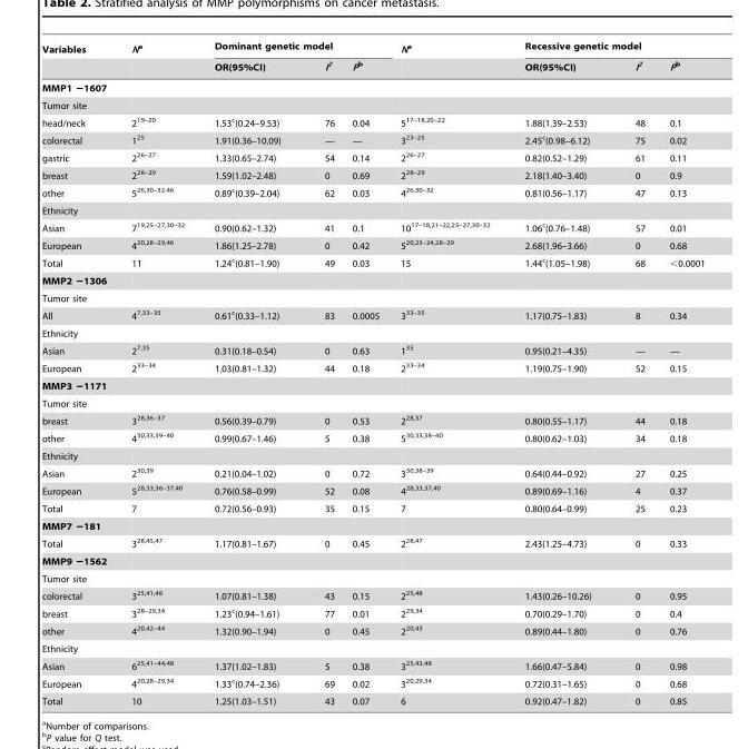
<table><thead><tr><td rowspan="2">Variables</td><td rowspan="2">Na</td><td colspan="3">Dominant genetic model</td><td rowspan="2">Na</td><td colspan="3">Recessive genetic model</td></tr><tr><td>OR(95%CI)</td><td>I<sup>2</sup></td><td>Pb</td><td>OR(95%CI)</td><td>I<sup>2</sup></td><td>Pb</td></tr></thead><tbody><tr><td colspan="9">MMP1 −1607</td></tr><tr><td colspan="9">Tumor site</td></tr><tr><td>head/neck</td><td>2<sup>19–20</sup></td><td>1.53<sup>c</sup>(0.24–9.53)</td><td>76</td><td>0.04</td><td>5<sup>17–18,20–22</sup></td><td>1.88(1.39–2.53)</td><td>48</td><td>0.1</td></tr><tr><td>colorectal</td><td>1<sup>25</sup></td><td>1.91(0.36–10.09)</td><td>—</td><td>—</td><td>3<sup>23–25</sup></td><td>2.45<sup>c</sup>(0.98–6.12)</td><td>75</td><td>0.02</td></tr><tr><td>gastric</td><td>2<sup>26–27</sup></td><td>1.33(0.65–2.74)</td><td>54</td><td>0.14</td><td>2<sup>26–27</sup></td><td>0.82(0.52–1.29)</td><td>61</td><td>0.11</td></tr><tr><td>breast</td><td>2<sup>28–29</sup></td><td>1.59(1.02–2.48)</td><td>0</td><td>0.69</td><td>2<sup>28–29</sup></td><td>2.18(1.40–3.40)</td><td>0</td><td>0.9</td></tr><tr><td>other</td><td>5<sup>26,30–32.46</sup></td><td>0.89<sup>c</sup>(0.39–2.04)</td><td>62</td><td>0.03</td><td>4<sup>26,30–32</sup></td><td>0.81(0.56–1.17)</td><td>47</td><td>0.13</td></tr><tr><td colspan="9">Ethnicity</td></tr><tr><td>Asian</td><td>7<sup>19,25–27,30–32</sup></td><td>0.90(0.62–1.32)</td><td>41</td><td>0.1</td><td>10<sup>17–18,21–22,25–27,30–32</sup></td><td>1.06<sup>c</sup>(0.76–1.48)</td><td>57</td><td>0.01</td></tr><tr><td>European</td><td>4<sup>20,28–29,46</sup></td><td>1.86(1.25–2.78)</td><td>0</td><td>0.42</td><td>5<sup>20,23–24,28–29</sup></td><td>2.68(1.96–3.66)</td><td>0</td><td>0.68</td></tr><tr><td>Total</td><td>11</td><td>1.24<sup>c</sup>(0.81–1.90)</td><td>49</td><td>0.03</td><td>15</td><td>1.44<sup>c</sup>(1.05–1.98)</td><td>68</td><td>&lt;0.0001</td></tr><tr><td colspan="9">MMP2 −1306</td></tr><tr><td colspan="9">Tumor site</td></tr><tr><td>All</td><td>4<sup>7,33–35</sup></td><td>0.61<sup>c</sup>(0.33–1.12)</td><td>83</td><td>0.0005</td><td>3<sup>33–35</sup></td><td>1.17(0.75–1.83)</td><td>8</td><td>0.34</td></tr><tr><td colspan="9">Ethnicity</td></tr><tr><td>Asian</td><td>2<sup>7,35</sup></td><td>0.31(0.18–0.54)</td><td>0</td><td>0.63</td><td>1<sup>35</sup></td><td>0.95(0.21–4.35)</td><td>—</td><td>—</td></tr><tr><td>European</td><td>2<sup>33–34</sup></td><td>1.03(0.81–1.32)</td><td>44</td><td>0.18</td><td>2<sup>33–34</sup></td><td>1.19(0.75–1.90)</td><td>52</td><td>0.15</td></tr><tr><td colspan="9">MMP3 −1171</td></tr><tr><td colspan="9">Tumor site</td></tr><tr><td>breast</td><td>3<sup>28,36–37</sup></td><td>0.56(0.39–0.79)</td><td>0</td><td>0.53</td><td>2<sup>28,37</sup></td><td>0.80(0.55–1.17)</td><td>44</td><td>0.18</td></tr><tr><td>other</td><td>4<sup>30,33,39–40</sup></td><td>0.99(0.67–1.46)</td><td>5</td><td>0.38</td><td>5<sup>30,33,38–40</sup></td><td>0.80(0.62–1.03)</td><td>34</td><td>0.18</td></tr><tr><td colspan="9">Ethnicity</td></tr><tr><td>Asian</td><td>2<sup>30,39</sup></td><td>0.21(0.04–1.02)</td><td>0</td><td>0.72</td><td>3<sup>30,38–39</sup></td><td>0.64(0.44–0.92)</td><td>27</td><td>0.25</td></tr><tr><td>European</td><td>5<sup>28,33,36–37,40</sup></td><td>0.76(0.58–0.99)</td><td>52</td><td>0.08</td><td>4<sup>28,33,37,40</sup></td><td>0.89(0.69–1.16)</td><td>4</td><td>0.37</td></tr><tr><td>Total</td><td>7</td><td>0.72(0.56–0.93)</td><td>35</td><td>0.15</td><td>7</td><td>0.80(0.64–0.99)</td><td>25</td><td>0.23</td></tr><tr><td colspan="9">MMP7 −181</td></tr><tr><td>Total</td><td>3<sup>28,45,47</sup></td><td>1.17(0.81–1.67)</td><td>0</td><td>0.45</td><td>2<sup>28,47</sup></td><td>2.43(1.25–4.73)</td><td>0</td><td>0.33</td></tr><tr><td colspan="9">MMP9 −1562</td></tr><tr><td colspan="9">Tumor site</td></tr><tr><td>colorectal</td><td>3<sup>25,41,48</sup></td><td>1.07(0.81–1.38)</td><td>43</td><td>0.15</td><td>2<sup>25,48</sup></td><td>1.43(0.26–10.26)</td><td>0</td><td>0.95</td></tr><tr><td>breast</td><td>3<sup>28–29,34</sup></td><td>1.23<sup>c</sup>(0.94–1.61)</td><td>77</td><td>0.01</td><td>2<sup>29,34</sup></td><td>0.70(0.29–1.70)</td><td>0</td><td>0.4</td></tr><tr><td>other</td><td>4<sup>20,42–44</sup></td><td>1.32(0.90–1.94)</td><td>0</td><td>0.45</td><td>2<sup>20,43</sup></td><td>0.89(0.44–1.80)</td><td>0</td><td>0.76</td></tr><tr><td colspan="9">Ethnicity</td></tr><tr><td>Asian</td><td>6<sup>25,41–44,48</sup></td><td>1.37(1.02–1.83)</td><td>5</td><td>0.38</td><td>3<sup>25,43,48</sup></td><td>1.66(0.47–5.84)</td><td>0</td><td>0.98</td></tr><tr><td>European</td><td>4<sup>20,28–29,34</sup></td><td>1.33<sup>c</sup>(0.74–2.36)</td><td>69</td><td>0.02</td><td>3<sup>20,29,34</sup></td><td>0.72(0.31–1.65)</td><td>0</td><td>0.68</td></tr><tr><td>Total</td><td>10</td><td>1.25(1.03–1.51)</td><td>43</td><td>0.07</td><td>6</td><td>0.92(0.47–1.82)</td><td>0</td><td>0.85</td></tr></tbody></table>